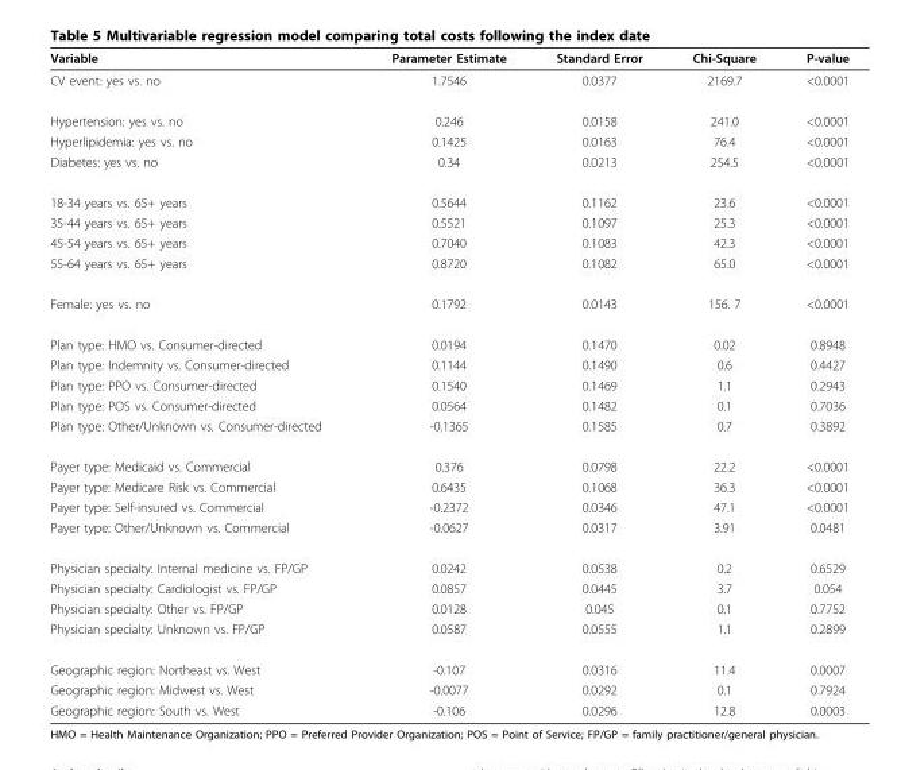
<table><thead><tr><td>Variable</td><td>Parameter Estimate</td><td>Standard Error</td><td>Chi-Square</td><td>P-value</td></tr></thead><tbody><tr><td>CV event: yes vs. no</td><td>1.7546</td><td>0.0377</td><td>2169.7</td><td>&lt;0.0001</td></tr><tr><td>Hypertension: yes vs. no</td><td>0.246</td><td>0.0158</td><td>241.0</td><td>&lt;0.0001</td></tr><tr><td>Hyperlipidemia: yes vs. no</td><td>0.1425</td><td>0.0163</td><td>76.4</td><td>&lt;0.0001</td></tr><tr><td>Diabetes: yes vs. no</td><td>0.34</td><td>0.0213</td><td>254.5</td><td>&lt;0.0001</td></tr><tr><td>18-34 years vs. 65+ years</td><td>0.5644</td><td>0.1162</td><td>23.6</td><td>&lt;0.0001</td></tr><tr><td>35-44 years vs. 65+ years</td><td>0.5521</td><td>0.1097</td><td>25.3</td><td>&lt;0.0001</td></tr><tr><td>45-54 years vs. 65+ years</td><td>0.7040</td><td>0.1083</td><td>42.3</td><td>&lt;0.0001</td></tr><tr><td>55-64 years vs. 65+ years</td><td>0.8720</td><td>0.1082</td><td>65.0</td><td>&lt;0.0001</td></tr><tr><td>Female: yes vs. no</td><td>0.1792</td><td>0.0143</td><td>156. 7</td><td>&lt;0.0001</td></tr><tr><td>Plan type: HMO vs. Consumer-directed</td><td>0.0194</td><td>0.1470</td><td>0.02</td><td>0.8948</td></tr><tr><td>Plan type: Indemnity vs. Consumer-directed</td><td>0.1144</td><td>0.1490</td><td>0.6</td><td>0.4427</td></tr><tr><td>Plan type: PPO vs. Consumer-directed</td><td>0.1540</td><td>0.1469</td><td>1.1</td><td>0.2943</td></tr><tr><td>Plan type: POS vs. Consumer-directed</td><td>0.0564</td><td>0.1482</td><td>0.1</td><td>0.7036</td></tr><tr><td>Plan type: Other/Unknown vs. Consumer-directed</td><td>-0.1365</td><td>0.1585</td><td>0.7</td><td>0.3892</td></tr><tr><td>Payer type: Medicaid vs. Commercial</td><td>0.376</td><td>0.0798</td><td>22.2</td><td>&lt;0.0001</td></tr><tr><td>Payer type: Medicare Risk vs. Commercial</td><td>0.6435</td><td>0.1068</td><td>36.3</td><td>&lt;0.0001</td></tr><tr><td>Payer type: Self-insured vs. Commercial</td><td>-0.2372</td><td>0.0346</td><td>47.1</td><td>&lt;0.0001</td></tr><tr><td>Payer type: Other/Unknown vs. Commercial</td><td>-0.0627</td><td>0.0317</td><td>3.91</td><td>0.0481</td></tr><tr><td>Physician specialty: Internal medicine vs. FP/GP</td><td>0.0242</td><td>0.0538</td><td>0.2</td><td>0.6529</td></tr><tr><td>Physician specialty: Cardiologist vs. FP/GP</td><td>0.0857</td><td>0.0445</td><td>3.7</td><td>0.054</td></tr><tr><td>Physician specialty: Other vs. FP/GP</td><td>0.0128</td><td>0.045</td><td>0.1</td><td>0.7752</td></tr><tr><td>Physician specialty: Unknown vs. FP/GP</td><td>0.0587</td><td>0.0555</td><td>1.1</td><td>0.2899</td></tr><tr><td>Geographic region: Northeast vs. West</td><td>-0.107</td><td>0.0316</td><td>11.4</td><td>0.0007</td></tr><tr><td>Geographic region: Midwest vs. West</td><td>-0.0077</td><td>0.0292</td><td>0.1</td><td>0.7924</td></tr><tr><td>Geographic region: South vs. West</td><td>-0.106</td><td>0.0296</td><td>12.8</td><td>0.0003</td></tr></tbody></table>